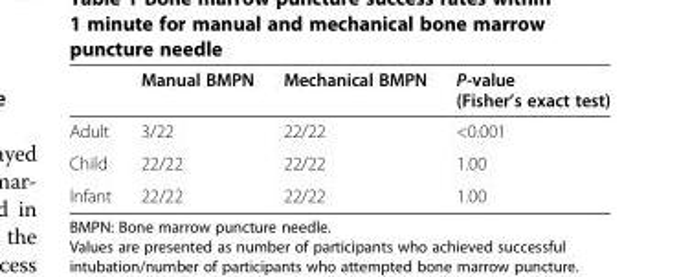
<table><thead><tr><td></td><td>Manual BMPN</td><td>Mechanical BMPN</td><td>P-value (Fisher’s exact test)</td></tr></thead><tbody><tr><td>Adult</td><td>3/22</td><td>22/22</td><td>&lt;0.001</td></tr><tr><td>Child</td><td>22/22</td><td>22/22</td><td>1.00</td></tr><tr><td>Infant</td><td>22/22</td><td>22/22</td><td>1.00</td></tr></tbody></table>